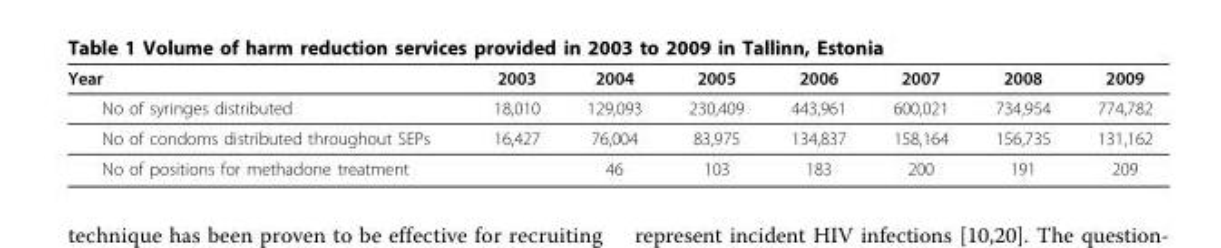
<table><tbody><tr><td>Year</td><td>2003</td><td>2004</td><td>2005</td><td>2006</td><td>2007</td><td>2008</td><td>2009</td></tr><tr><td>No of syringes distributed</td><td>18,010</td><td>129,093</td><td>230,409</td><td>443,961</td><td>600,021</td><td>734,954</td><td>774,782</td></tr><tr><td>No of condoms distributed throughout SEPs</td><td>16,427</td><td>76,004</td><td>83,975</td><td>134,837</td><td>158,164</td><td>156,735</td><td>131,162</td></tr><tr><td>No of positions for methadone treatment</td><td></td><td>46</td><td>103</td><td>183</td><td>200</td><td>191</td><td>209</td></tr></tbody></table>